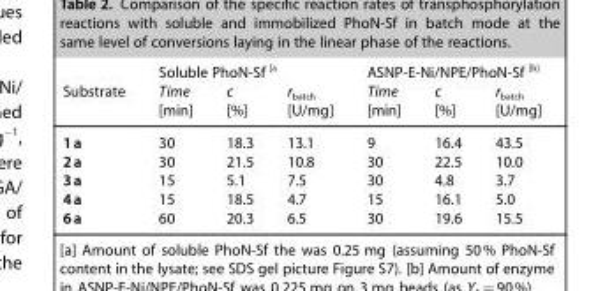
<table><thead><tr><td rowspan="2">Substrate</td><td colspan="3">Soluble PhoN-Sf <sup>[a</sup></td><td colspan="3">ASNP-E-Ni/NPE/PhoN-Sf <sup>[b]</sup></td></tr><tr><td>Time [min]</td><td>c [%]</td><td>r<sub>batch</sub> [U/mg]</td><td>Time [min]</td><td>c [%]</td><td>r<sub>batch</sub> [U/mg]</td></tr></thead><tbody><tr><td>1a</td><td>30</td><td>18.3</td><td>13.1</td><td>9</td><td>16.4</td><td>43.5</td></tr><tr><td>2a</td><td>30</td><td>21.5</td><td>10.8</td><td>30</td><td>22.5</td><td>10.0</td></tr><tr><td>3a</td><td>15</td><td>5.1</td><td>7.5</td><td>30</td><td>4.8</td><td>3.7</td></tr><tr><td>4a</td><td>15</td><td>18.5</td><td>4.7</td><td>15</td><td>16.1</td><td>5.0</td></tr><tr><td>6a</td><td>60</td><td>20.3</td><td>6.5</td><td>30</td><td>19.6</td><td>15.5</td></tr></tbody></table>